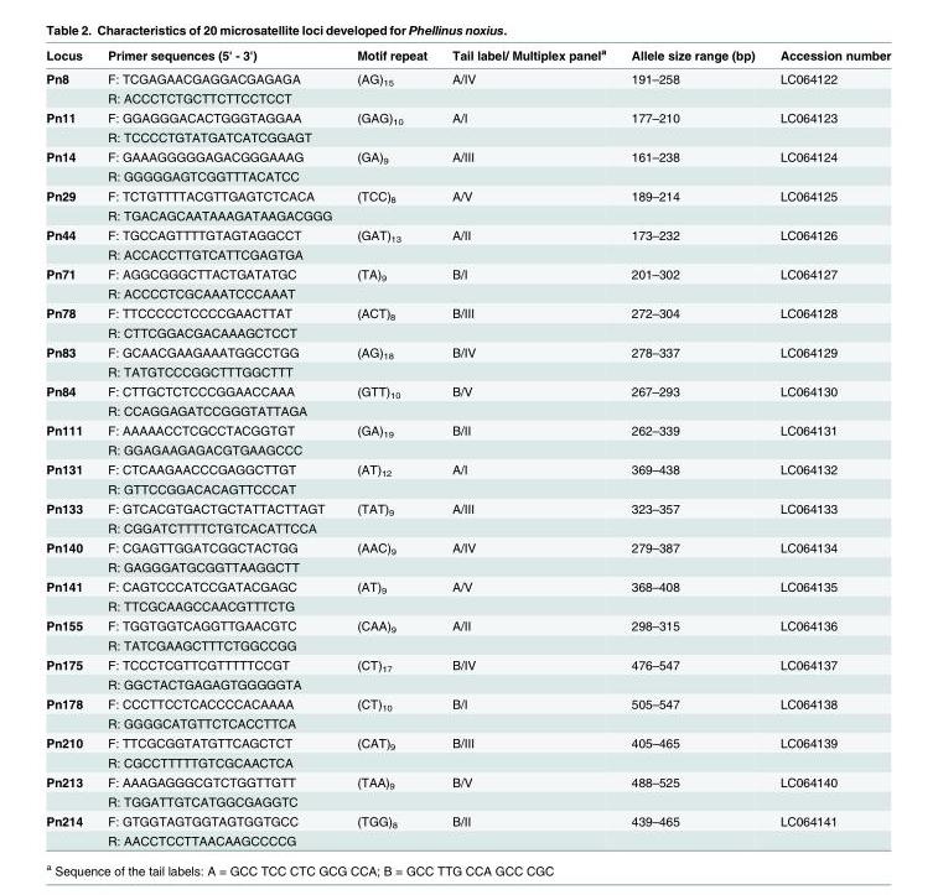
<table><thead><tr><td>Locus</td><td>Primer sequences (5&#x27; - 3&#x27;)</td><td>Motif repeat</td><td>Tail label/ Multiplex panel<sup>a</sup></td><td>Allele size range (bp)</td><td>Accession number</td></tr></thead><tbody><tr><td rowspan="2">Pn8</td><td>F: TCGAGAACGAGGACGAGAGA</td><td>(AG)<sub>15</sub></td><td>A/IV</td><td>191–258</td><td>LC064122</td></tr><tr><td>R: ACCCTCTGCTTCTTCCTCCT</td><td></td><td></td><td></td><td></td></tr><tr><td rowspan="2">Pn11</td><td>F: GGAGGGACACTGGGTAGGAA</td><td>(GAG)<sub>10</sub></td><td>A/I</td><td>177–210</td><td>LC064123</td></tr><tr><td>R: TCCCCTGTATGATCATCGGAGT</td><td></td><td></td><td></td><td></td></tr><tr><td rowspan="2">Pn14</td><td>F: GAAAGGGGGAGACGGGAAAG</td><td>(GA)<sub>9</sub></td><td>A/III</td><td>161–238</td><td>LC064124</td></tr><tr><td>R: GGGGGAGTCGGTTTACATCC</td><td></td><td></td><td></td><td></td></tr><tr><td rowspan="2">Pn29</td><td>F: TCTGTTTTACGTTGAGTCTCACA</td><td>(TCC)<sub>8</sub></td><td>A/V</td><td>189–214</td><td>LC064125</td></tr><tr><td>R: TGACAGCAATAAAGATAAGACGGG</td><td></td><td></td><td></td><td></td></tr><tr><td rowspan="2">Pn44</td><td>F: TGCCAGTTTTGTAGTAGGCCT</td><td>(GAT)<sub>13</sub></td><td>A/II</td><td>173–232</td><td>LC064126</td></tr><tr><td>R: ACCACCTTGTCATTCGAGTGA</td><td></td><td></td><td></td><td></td></tr><tr><td rowspan="2">Pn71</td><td>F: AGGCGGGCTTACTGATATGC</td><td>(TA)<sub>9</sub></td><td>B/I</td><td>201–302</td><td>LC064127</td></tr><tr><td>R: ACCCCTCGCAAATCCCAAAT</td><td></td><td></td><td></td><td></td></tr><tr><td rowspan="2">Pn78</td><td>F: TTCCCCCTCCCCGAACTTAT</td><td>(ACT)<sub>8</sub></td><td>B/III</td><td>272–304</td><td>LC064128</td></tr><tr><td>R: CTTCGGACGACAAAGCTCCT</td><td></td><td></td><td></td><td></td></tr><tr><td rowspan="2">Pn83</td><td>F: GCAACGAAGAAATGGCCTGG</td><td>(AG)<sub>18</sub></td><td>B/IV</td><td>278–337</td><td>LC064129</td></tr><tr><td>R: TATGTCCCGGCTTTGGCTTT</td><td></td><td></td><td></td><td></td></tr><tr><td rowspan="2">Pn84</td><td>F: CTTGCTCTCCCGGAACCAAA</td><td>(GTT)<sub>10</sub></td><td>B/V</td><td>267–293</td><td>LC064130</td></tr><tr><td>R: CCAGGAGATCCGGGTATTAGA</td><td></td><td></td><td></td><td></td></tr><tr><td rowspan="2">Pn111</td><td>F: AAAAACCTCGCCTACGGTGT</td><td>(GA)<sub>19</sub></td><td>B/II</td><td>262–339</td><td>LC064131</td></tr><tr><td>R: GGAGAAGAGACGTGAAGCCC</td><td></td><td></td><td></td><td></td></tr><tr><td rowspan="2">Pn131</td><td>F: CTCAAGAACCCGAGGCTTGT</td><td>(AT)<sub>12</sub></td><td>A/I</td><td>369–438</td><td>LC064132</td></tr><tr><td>R: GTTCCGGACACAGTTCCCAT</td><td></td><td></td><td></td><td></td></tr><tr><td rowspan="2">Pn133</td><td>F: GTCACGTGACTGCTATTACTTAGT</td><td>(TAT)<sub>9</sub></td><td>A/III</td><td>323–357</td><td>LC064133</td></tr><tr><td>R: CGGATCTTTTCTGTCACATTCCA</td><td></td><td></td><td></td><td></td></tr><tr><td rowspan="2">Pn140</td><td>F: CGAGTTGGATCGGCTACTGG</td><td>(AAC)<sub>9</sub></td><td>A/IV</td><td>279–387</td><td>LC064134</td></tr><tr><td>R: GAGGGATGCGGTTAAGGCTT</td><td></td><td></td><td></td><td></td></tr><tr><td rowspan="2">Pn141</td><td>F: CAGTCCCATCCGATACGAGC</td><td>(AT)<sub>9</sub></td><td>A/V</td><td>368–408</td><td>LC064135</td></tr><tr><td>R: TTCGCAAGCCAACGTTTCTG</td><td></td><td></td><td></td><td></td></tr><tr><td rowspan="2">Pn155</td><td>F: TGGTGGTCAGGTTGAACGTC</td><td>(CAA)<sub>9</sub></td><td>A/II</td><td>298–315</td><td>LC064136</td></tr><tr><td>R: TATCGAAGCTTTCTGGCCGG</td><td></td><td></td><td></td><td></td></tr><tr><td rowspan="2">Pn175</td><td>F: TCCCTCGTTCGTTTTTCCGT</td><td>(CT)<sub>17</sub></td><td>B/IV</td><td>476–547</td><td>LC064137</td></tr><tr><td>R: GGCTACTGAGAGTGGGGGTA</td><td></td><td></td><td></td><td></td></tr><tr><td rowspan="2">Pn178</td><td>F: CCCTTCCTCACCCCACAAAA</td><td>(CT)<sub>10</sub></td><td>B/I</td><td>505–547</td><td>LC064138</td></tr><tr><td>R: GGGGCATGTTCTCACCTTCA</td><td></td><td></td><td></td><td></td></tr><tr><td rowspan="2">Pn210</td><td>F: TTCGCGGTATGTTCAGCTCT</td><td>(CAT)<sub>9</sub></td><td>B/III</td><td>405–465</td><td>LC064139</td></tr><tr><td>R: CGCCTTTTTGTCGCAACTCA</td><td></td><td></td><td></td><td></td></tr><tr><td rowspan="2">Pn213</td><td>F: AAAGAGGGCGTCTGGTTGTT</td><td>(TAA)<sub>9</sub></td><td>B/V</td><td>488–525</td><td>LC064140</td></tr><tr><td>R: TGGATTGTCATGGCGAGGTC</td><td></td><td></td><td></td><td></td></tr><tr><td rowspan="2">Pn214</td><td>F: GTGGTAGTGGTAGTGGTGCC</td><td>(TGG)<sub>8</sub></td><td>B/II</td><td>439–465</td><td>LC064141</td></tr><tr><td>R: AACCTCCTTAACAAGCCCCG</td><td></td><td></td><td></td><td></td></tr></tbody></table>